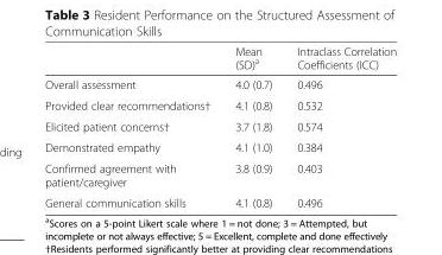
<table><thead><tr><td></td><td>Mean (SD)<sup>a</sup></td><td>Intraclass Correlation Coefficients (ICC)</td></tr></thead><tbody><tr><td>Overall assessment</td><td>4.0 (0.7)</td><td>0.496</td></tr><tr><td>Provided clear recommendations†</td><td>4.1 (0.8)</td><td>0.532</td></tr><tr><td>Elicited patient concerns†</td><td>3.7 (1.8)</td><td>0.574</td></tr><tr><td>Demonstrated empathy</td><td>4.1 (1.0)</td><td>0.384</td></tr><tr><td>Confirmed agreement with patient/caregiver</td><td>3.8 (0.9)</td><td>0.403</td></tr><tr><td>General communication skills</td><td>4.1 (0.8)</td><td>0.496</td></tr></tbody></table>